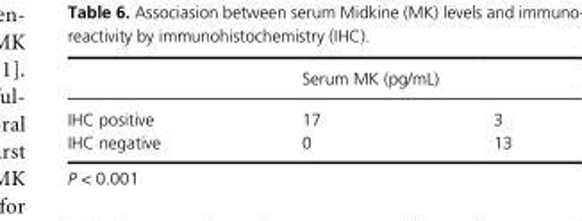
<table><thead><tr><td rowspan="2">IHC positive</td><td colspan="2">Serum MK (pg/mL)</td></tr><tr><td>17</td><td>3</td></tr></thead><tbody><tr><td>IHC negative</td><td>0</td><td>13</td></tr></tbody></table>